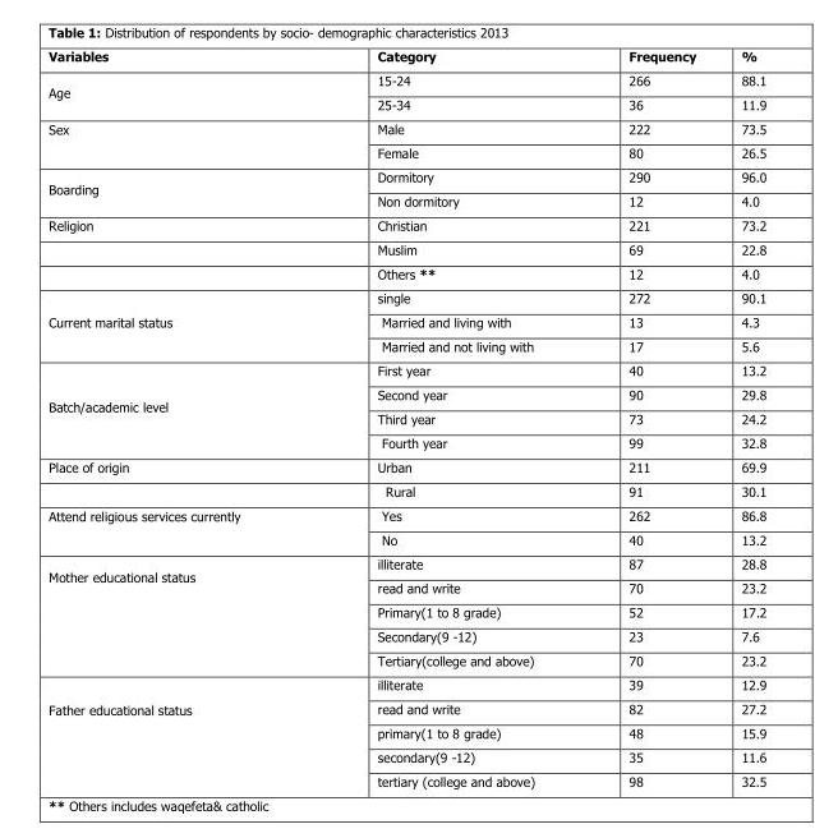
<table><thead><tr><td>Variables</td><td>Category</td><td>Frequency</td><td>%</td></tr></thead><tbody><tr><td rowspan="2">Age</td><td>15-24</td><td>266</td><td>88.1</td></tr><tr><td>25-34</td><td>36</td><td>11.9</td></tr><tr><td rowspan="2">Sex</td><td>Male</td><td>222</td><td>73.5</td></tr><tr><td>Female</td><td>80</td><td>26.5</td></tr><tr><td rowspan="2">Boarding</td><td>Dormitory</td><td>290</td><td>96.0</td></tr><tr><td>Non dormitory</td><td>12</td><td>4.0</td></tr><tr><td rowspan="3">Religion</td><td>Christian</td><td>221</td><td>73.2</td></tr><tr><td>Muslim</td><td>69</td><td>22.8</td></tr><tr><td>Others **</td><td>12</td><td>4.0</td></tr><tr><td rowspan="3">Current marital status</td><td>single</td><td>272</td><td>90.1</td></tr><tr><td>Married and living with</td><td>13</td><td>4.3</td></tr><tr><td>Married and not living with</td><td>17</td><td>5.6</td></tr><tr><td rowspan="4">Batch/academic level</td><td>First year</td><td>40</td><td>13.2</td></tr><tr><td>Second year</td><td>90</td><td>29.8</td></tr><tr><td>Third year</td><td>73</td><td>24.2</td></tr><tr><td>Fourth year</td><td>99</td><td>32.8</td></tr><tr><td rowspan="2">Place of origin</td><td>Urban</td><td>211</td><td>69.9</td></tr><tr><td>Rural</td><td>91</td><td>30.1</td></tr><tr><td rowspan="2">Attend religious services currently</td><td>Yes</td><td>262</td><td>86.8</td></tr><tr><td>No</td><td>40</td><td>13.2</td></tr><tr><td rowspan="5">Mother educational status</td><td>illiterate</td><td>87</td><td>28.8</td></tr><tr><td>read and write</td><td>70</td><td>23.2</td></tr><tr><td>Primary(1 to 8 grade)</td><td>52</td><td>17.2</td></tr><tr><td>Secondary(9 -12)</td><td>23</td><td>7.6</td></tr><tr><td>Tertiary(college and above)</td><td>70</td><td>23.2</td></tr><tr><td rowspan="5">Father educational status</td><td>illiterate</td><td>39</td><td>12.9</td></tr><tr><td>read and write</td><td>82</td><td>27.2</td></tr><tr><td>primary(1 to 8 grade)</td><td>48</td><td>15.9</td></tr><tr><td>secondary(9 -12)</td><td>35</td><td>11.6</td></tr><tr><td>tertiary (college and above)</td><td>98</td><td>32.5</td></tr></tbody></table>